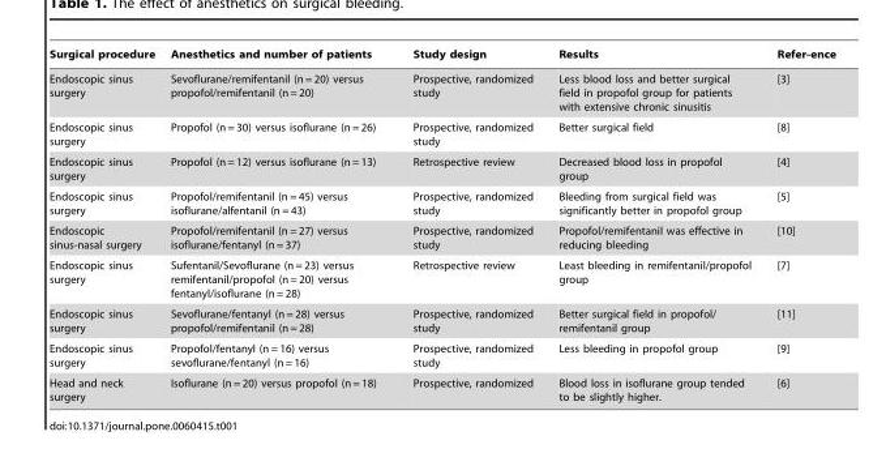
<table><thead><tr><td>Surgical procedure</td><td>Anesthetics and number of patients</td><td>Study design</td><td>Results</td><td>Refer-ence</td></tr></thead><tbody><tr><td>Endoscopic sinus surgery</td><td>Sevoflurane/remifentanil (n = 20) versus propofol/remifentanil (n = 20)</td><td>Prospective, randomized study</td><td>Less blood loss and better surgical field in propofol group for patients with extensive chronic sinusitis</td><td>[3]</td></tr><tr><td>Endoscopic sinus surgery</td><td>Propofol (n = 30) versus isoflurane (n = 26)</td><td>Prospective, randomized study</td><td>Better surgical field</td><td>[8]</td></tr><tr><td>Endoscopic sinus surgery</td><td>Propofol (n = 12) versus isoflurane (n = 13)</td><td>Retrospective review</td><td>Decreased blood loss in propofol group</td><td>[4]</td></tr><tr><td>Endoscopic sinus surgery</td><td>Propofol/remifentanil (n = 45) versus isoflurane/alfentanil (n = 43)</td><td>Prospective, randomized study</td><td>Bleeding from surgical field was significantly better in propofol group</td><td>[5]</td></tr><tr><td>Endoscopic sinus-nasal surgery</td><td>Propofol/remifentanil (n = 27) versus isoflurane/fentanyl (n = 37)</td><td>Prospective, randomized study</td><td>Propofol/remifentanil was effective in reducing bleeding</td><td>[10]</td></tr><tr><td>Endoscopic sinus surgery</td><td>Sufentanil/Sevoflurane (n = 23) versus remifentanil/propofol (n = 20) versus fentanyl/isoflurane (n = 28)</td><td>Retrospective review</td><td>Least bleeding in remifentanil/propofol group</td><td>[7]</td></tr><tr><td>Endoscopic sinus surgery</td><td>Sevoflurane/fentanyl (n = 28) versus propofol/remifentanil (n = 28)</td><td>Prospective, randomized study</td><td>Better surgical field in propofol/ remifentanil group</td><td>[11]</td></tr><tr><td>Endoscopic sinus surgery</td><td>Propofol/fentanyl (n = 16) versus sevoflurane/fentanyl (n = 16)</td><td>Prospective, randomized study</td><td>Less bleeding in propofol group</td><td>[9]</td></tr><tr><td>Head and neck surgery</td><td>Isoflurane (n = 20) versus propofol (n = 18)</td><td>Prospective, randomized</td><td>Blood loss in isoflurane group tended to be slightly higher.</td><td>[6]</td></tr></tbody></table>